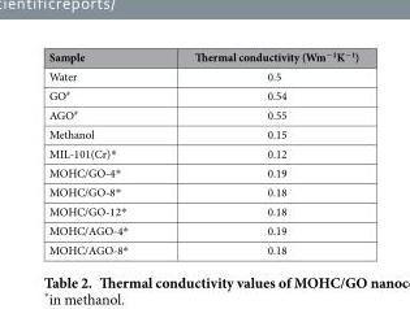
<table><thead><tr><td>Sample</td><td>Thermal conductivity (Wm<sup>−1</sup>K<sup>−1</sup>)</td></tr></thead><tbody><tr><td>Water</td><td>0.5</td></tr><tr><td>GO<sup>#</sup></td><td>0.54</td></tr><tr><td>AGO<sup>#</sup></td><td>0.55</td></tr><tr><td>Methanol</td><td>0.15</td></tr><tr><td>MIL-101(Cr)*</td><td>0.12</td></tr><tr><td>MOHC/GO-4*</td><td>0.19</td></tr><tr><td>MOHC/GO-8*</td><td>0.18</td></tr><tr><td>MOHC/GO-12*</td><td>0.18</td></tr><tr><td>MOHC/AGO-4*</td><td>0.19</td></tr><tr><td>MOHC/AGO-8*</td><td>0.18</td></tr></tbody></table>